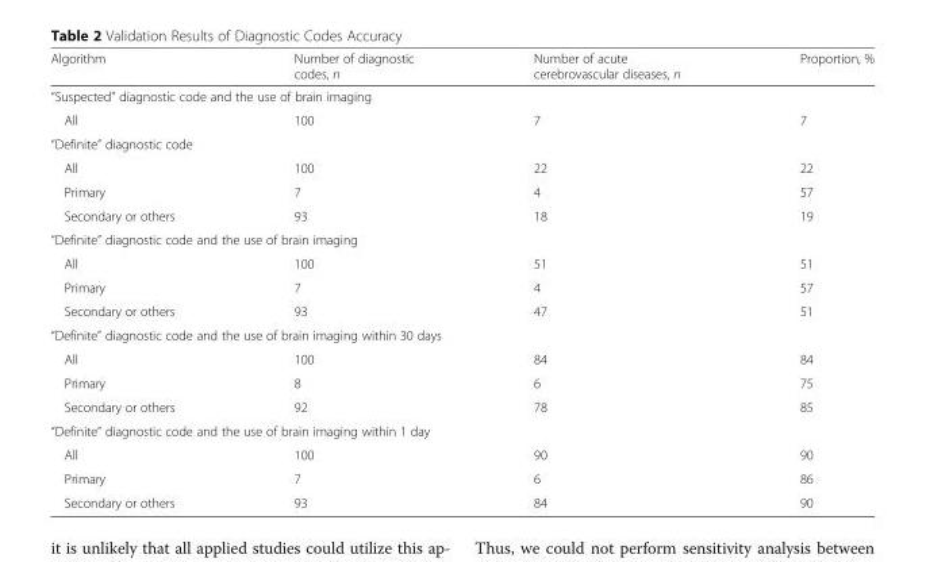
<table><thead><tr><td>Algorithm</td><td>Number of diagnostic codes, n</td><td>Number of acute cerebrovascular diseases, n</td><td>Proportion, %</td></tr></thead><tbody><tr><td colspan="4">“Suspected” diagnostic code and the use of brain imaging</td></tr><tr><td>All</td><td>100</td><td>7</td><td>7</td></tr><tr><td colspan="4">“Definite” diagnostic code</td></tr><tr><td>All</td><td>100</td><td>22</td><td>22</td></tr><tr><td>Primary</td><td>7</td><td>4</td><td>57</td></tr><tr><td>Secondary or others</td><td>93</td><td>18</td><td>19</td></tr><tr><td colspan="4">“Definite” diagnostic code and the use of brain imaging</td></tr><tr><td>All</td><td>100</td><td>51</td><td>51</td></tr><tr><td>Primary</td><td>7</td><td>4</td><td>57</td></tr><tr><td>Secondary or others</td><td>93</td><td>47</td><td>51</td></tr><tr><td colspan="4">“Definite” diagnostic code and the use of brain imaging within 30 days</td></tr><tr><td>All</td><td>100</td><td>84</td><td>84</td></tr><tr><td>Primary</td><td>8</td><td>6</td><td>75</td></tr><tr><td>Secondary or others</td><td>92</td><td>78</td><td>85</td></tr><tr><td colspan="4">“Definite” diagnostic code and the use of brain imaging within 1 day</td></tr><tr><td>All</td><td>100</td><td>90</td><td>90</td></tr><tr><td>Primary</td><td>7</td><td>6</td><td>86</td></tr><tr><td>Secondary or others</td><td>93</td><td>84</td><td>90</td></tr></tbody></table>